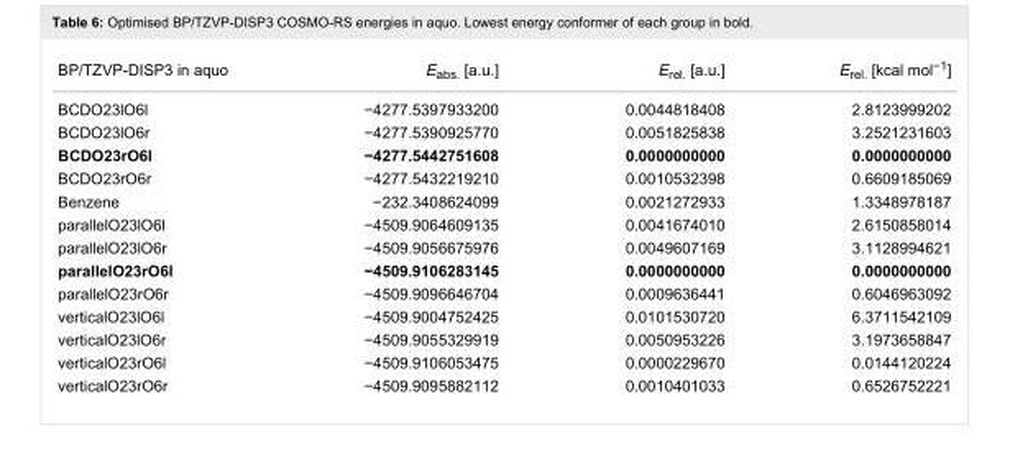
<table><tbody><tr><td>BP/TZVP-DISP3 in aquo</td><td>E<sub>abs.</sub> [a.u.]</td><td>E<sub>rel.</sub> [a.u.]</td><td>E<sub>rel.</sub> [kcal mol<sup>−1</sup>]</td></tr><tr><td>BCDO23lO6l</td><td>−4277.5397933200</td><td>0.0044818408</td><td>2.8123999202</td></tr><tr><td>BCDO23lO6r</td><td>−4277.5390925770</td><td>0.0051825838</td><td>3.2521231603</td></tr><tr><td>BCDO23rO6l</td><td>−4277.5442751608</td><td>0.0000000000</td><td>0.0000000000</td></tr><tr><td>BCDO23rO6r</td><td>−4277.5432219210</td><td>0.0010532398</td><td>0.6609185069</td></tr><tr><td>Benzene</td><td>−232.3408624099</td><td>0.0021272933</td><td>1.3348978187</td></tr><tr><td>parallelO23lO6l</td><td>−4509.9064609135</td><td>0.0041674010</td><td>2.6150858014</td></tr><tr><td>parallelO23lO6r</td><td>−4509.9056675976</td><td>0.0049607169</td><td>3.1128994621</td></tr><tr><td>parallelO23rO6l</td><td>−4509.9106283145</td><td>0.0000000000</td><td>0.0000000000</td></tr><tr><td>parallelO23rO6r</td><td>−4509.9096646704</td><td>0.0009636441</td><td>0.6046963092</td></tr><tr><td>verticalO23lO6l</td><td>−4509.9004752425</td><td>0.0101530720</td><td>6.3711542109</td></tr><tr><td>verticalO23lO6r</td><td>−4509.9055329919</td><td>0.0050953226</td><td>3.1973658847</td></tr><tr><td>verticalO23rO6l</td><td>−4509.9106053475</td><td>0.0000229670</td><td>0.0144120224</td></tr><tr><td>verticalO23rO6r</td><td>−4509.9095882112</td><td>0.0010401033</td><td>0.6526752221</td></tr></tbody></table>